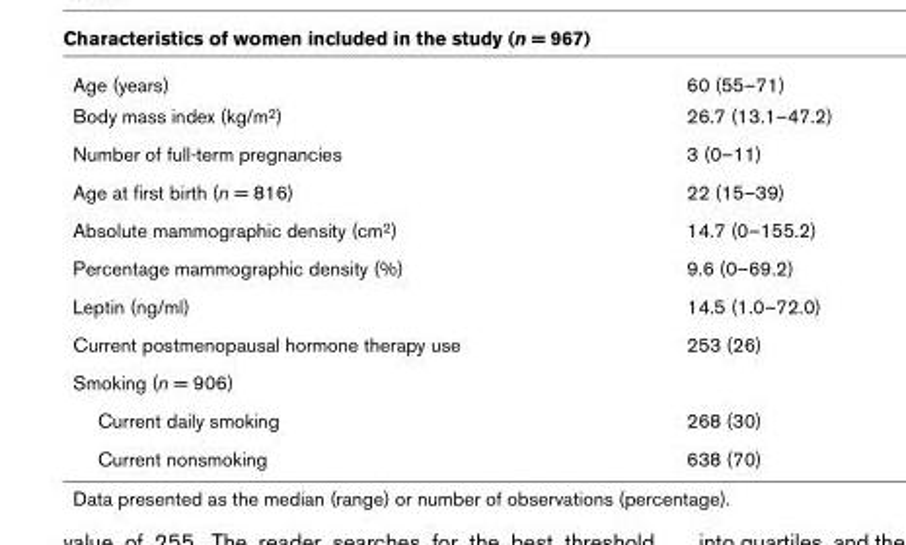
<table><tbody><tr><td>Age (years)</td><td>60 (55–71)</td></tr><tr><td>Body mass index (kg/m2)</td><td>26.7 (13.1–47.2)</td></tr><tr><td>Number of full-term pregnancies</td><td>3 (0–11)</td></tr><tr><td>Age at first birth (n = 816)</td><td>22 (15–39)</td></tr><tr><td>Absolute mammographic density (cm2)</td><td>14.7 (0–155.2)</td></tr><tr><td>Percentage mammographic density (%)</td><td>9.6 (0–69.2)</td></tr><tr><td>Leptin (ng/ml)</td><td>14.5 (1.0–72.0)</td></tr><tr><td>Current postmenopausal hormone therapy use</td><td>253 (26)</td></tr><tr><td colspan="2">Smoking (n = 906)</td></tr><tr><td>Current daily smoking</td><td>268 (30)</td></tr><tr><td>Current nonsmoking</td><td>638 (70)</td></tr></tbody></table>